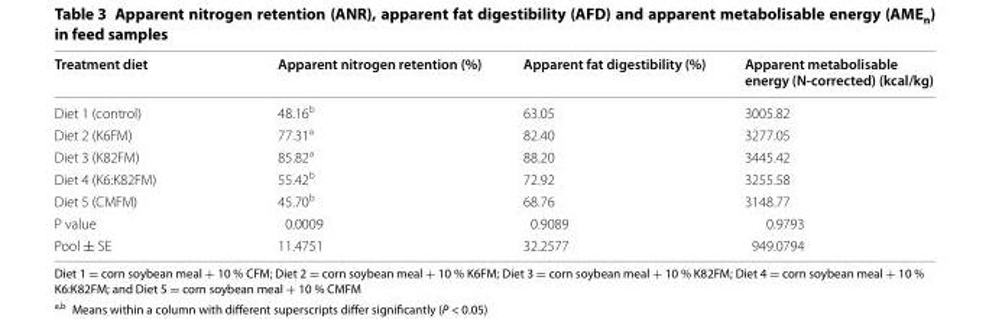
<table><thead><tr><td>Treatment diet</td><td>Apparent nitrogen retention (%)</td><td>Apparent fat digestibility (%)</td><td>Apparent metabolisable energy (N-corrected) (kcal/kg)</td></tr></thead><tbody><tr><td>Diet 1 (control)</td><td>48.16<sup>b</sup></td><td>63.05</td><td>3005.82</td></tr><tr><td>Diet 2 (K6FM)</td><td>77.31<sup>a</sup></td><td>82.40</td><td>3277.05</td></tr><tr><td>Diet 3 (K82FM)</td><td>85.82<sup>a</sup></td><td>88.20</td><td>3445.42</td></tr><tr><td>Diet 4 (K6:K82FM)</td><td>55.42<sup>b</sup></td><td>72.92</td><td>3255.58</td></tr><tr><td>Diet 5 (CMFM)</td><td>45.70<sup>b</sup></td><td>68.76</td><td>3148.77</td></tr><tr><td>P value</td><td>0.0009</td><td>0.9089</td><td>0.9793</td></tr><tr><td>Pool ± SE</td><td>11.4751</td><td>32.2577</td><td>949.0794</td></tr></tbody></table>